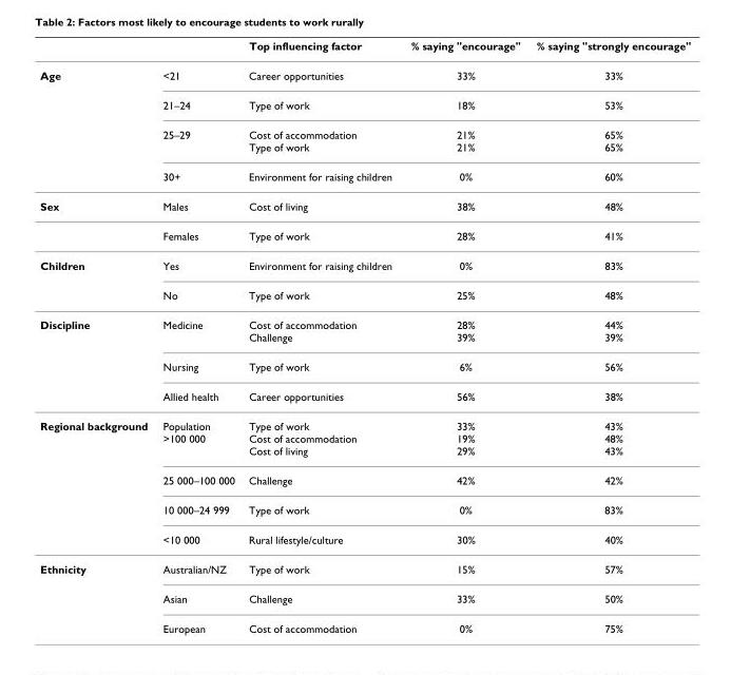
<table><thead><tr><td></td><td></td><td>Top influencing factor</td><td>% saying &quot;encourage&quot;</td><td>% saying &quot;strongly encourage&quot;</td></tr></thead><tbody><tr><td rowspan="4">Age</td><td>&lt;21</td><td>Career opportunities</td><td>33%</td><td>33%</td></tr><tr><td>21–24</td><td>Type of work</td><td>18%</td><td>53%</td></tr><tr><td>25–29</td><td>Cost of accommodation Type of work</td><td>21% 21%</td><td>65% 65%</td></tr><tr><td>30+</td><td>Environment for raising children</td><td>0%</td><td>60%</td></tr><tr><td rowspan="2">Sex</td><td>Males</td><td>Cost of living</td><td>38%</td><td>48%</td></tr><tr><td>Females</td><td>Type of work</td><td>28%</td><td>41%</td></tr><tr><td rowspan="2">Children</td><td>Yes</td><td>Environment for raising children</td><td>0%</td><td>83%</td></tr><tr><td>No</td><td>Type of work</td><td>25%</td><td>48%</td></tr><tr><td rowspan="3">Discipline</td><td>Medicine</td><td>Cost of accommodation Challenge</td><td>28% 39%</td><td>44% 39%</td></tr><tr><td>Nursing</td><td>Type of work</td><td>6%</td><td>56%</td></tr><tr><td>Allied health</td><td>Career opportunities</td><td>56%</td><td>38%</td></tr><tr><td rowspan="4">Regional background</td><td>Population &gt;100 000</td><td>Type of work Cost of accommodation Cost of living</td><td>33% 19% 29%</td><td>43% 48% 43%</td></tr><tr><td>25 000–100 000</td><td>Challenge</td><td>42%</td><td>42%</td></tr><tr><td>10 000–24 999</td><td>Type of work</td><td>0%</td><td>83%</td></tr><tr><td>&lt;10 000</td><td>Rural lifestyle/culture</td><td>30%</td><td>40%</td></tr><tr><td rowspan="3">Ethnicity</td><td>Australian/NZ</td><td>Type of work</td><td>15%</td><td>57%</td></tr><tr><td>Asian</td><td>Challenge</td><td>33%</td><td>50%</td></tr><tr><td>European</td><td>Cost of accommodation</td><td>0%</td><td>75%</td></tr></tbody></table>